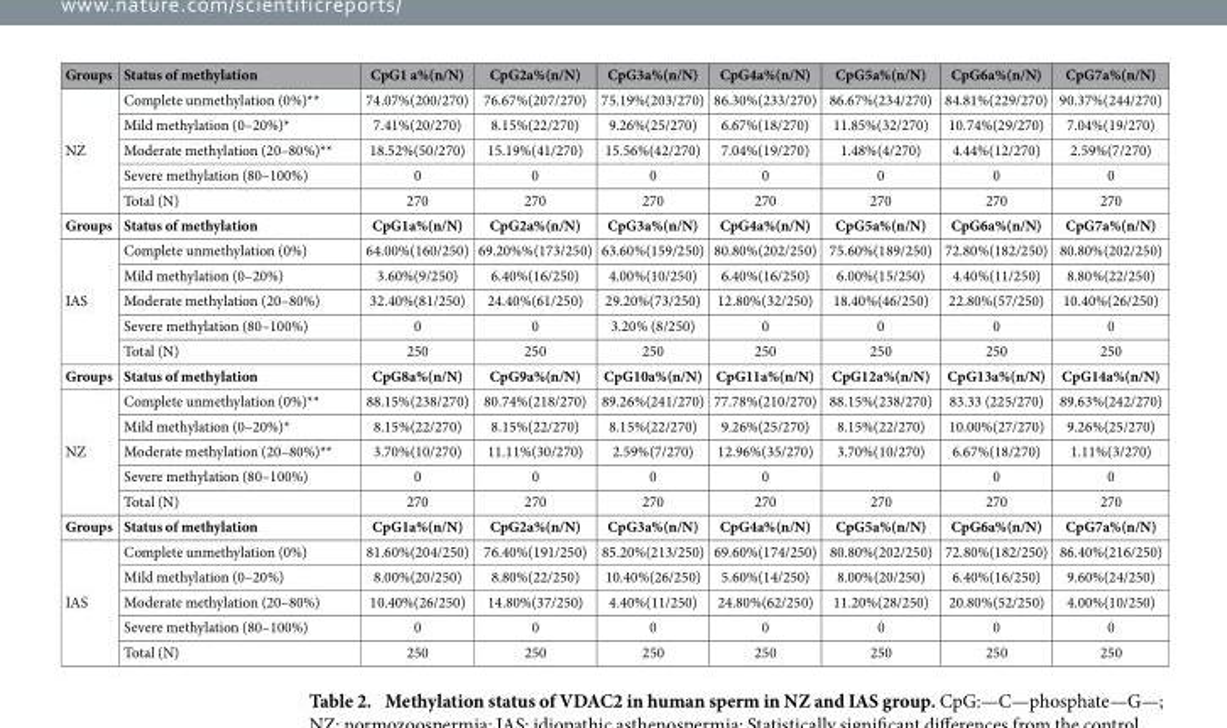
<table><thead><tr><td>Groups</td><td>Status of methylation</td><td>CpG1 a%(n/N)</td><td>CpG2a%(n/N)</td><td>CpG3a%(n/N)</td><td>CpG4a%(n/N)</td><td>CpG5a%(n/N)</td><td>CpG6a%(n/N)</td><td>CpG7a%(n/N)</td></tr></thead><tbody><tr><td rowspan="5">NZ</td><td>Complete unmethylation (0%)**</td><td>74.07%(200/270)</td><td>76.67%(207/270)</td><td>75.19%(203/270)</td><td>86.30%(233/270)</td><td>86.67%(234/270)</td><td>84.81%(229/270)</td><td>90.37%(244/270)</td></tr><tr><td>Mild methylation (0–20%)*</td><td>7.41%(20/270)</td><td>8.15%(22/270)</td><td>9.26%(25/270)</td><td>6.67%(18/270)</td><td>11.85%(32/270)</td><td>10.74%(29/270)</td><td>7.04%(19/270)</td></tr><tr><td>Moderate methylation (20–80%)**</td><td>18.52%(50/270)</td><td>15.19%(41/270)</td><td>15.56%(42/270)</td><td>7.04%(19/270)</td><td>1.48%(4/270)</td><td>4.44%(12/270)</td><td>2.59%(7/270)</td></tr><tr><td>Severe methylation (80–100%)</td><td>0</td><td>0</td><td>0</td><td>0</td><td>0</td><td>0</td><td>0</td></tr><tr><td>Total (N)</td><td>270</td><td>270</td><td>270</td><td>270</td><td>270</td><td>270</td><td>270</td></tr><tr><td>Groups</td><td>Status of methylation</td><td>CpG1a%(n/N)</td><td>CpG2a%(n/N)</td><td>CpG3a%(n/N)</td><td>CpG4a%(n/N)</td><td>CpG5a%(n/N)</td><td>CpG6a%(n/N)</td><td>CpG7a%(n/N)</td></tr><tr><td rowspan="5">IAS</td><td>Complete unmethylation (0%)</td><td>64.00%(160/250)</td><td>69.20%%(173/250)</td><td>63.60%(159/250)</td><td>80.80%(202/250)</td><td>75.60%(189/250)</td><td>72.80%(182/250)</td><td>80.80%(202/250)</td></tr><tr><td>Mild methylation (0–20%)</td><td>3.60%(9/250)</td><td>6.40%(16/250)</td><td>4.00%(10/250)</td><td>6.40%(16/250)</td><td>6.00%(15/250)</td><td>4.40%(11/250)</td><td>8.80%(22/250)</td></tr><tr><td>Moderate methylation (20–80%)</td><td>32.40%(81/250)</td><td>24.40%(61/250)</td><td>29.20%(73/250)</td><td>12.80%(32/250)</td><td>18.40%(46/250)</td><td>22.80%(57/250)</td><td>10.40%(26/250)</td></tr><tr><td>Severe methylation (80–100%)</td><td>0</td><td>0</td><td>3.20% (8/250)</td><td>0</td><td>0</td><td>0</td><td>0</td></tr><tr><td>Total (N)</td><td>250</td><td>250</td><td>250</td><td>250</td><td>250</td><td>250</td><td>250</td></tr><tr><td>Groups</td><td>Status of methylation</td><td>CpG8a%(n/N)</td><td>CpG9a%(n/N)</td><td>CpG10a%(n/N)</td><td>CpG11a%(n/N)</td><td>CpG12a%(n/N)</td><td>CpG13a%(n/N)</td><td>CpG14a%(n/N)</td></tr><tr><td rowspan="5">NZ</td><td>Complete unmethylation (0%)**</td><td>88.15%(238/270)</td><td>80.74%(218/270)</td><td>89.26%(241/270)</td><td>77.78%(210/270)</td><td>88.15%(238/270)</td><td>83.33 (225/270)</td><td>89.63%(242/270)</td></tr><tr><td>Mild methylation (0–20%)*</td><td>8.15%(22/270)</td><td>8.15%(22/270)</td><td>8.15%(22/270)</td><td>9.26%(25/270)</td><td>8.15%(22/270)</td><td>10.00%(27/270)</td><td>9.26%(25/270)</td></tr><tr><td>Moderate methylation (20–80%)**</td><td>3.70%(10/270)</td><td>11.11%(30/270)</td><td>2.59%(7/270)</td><td>12.96%(35/270)</td><td>3.70%(10/270)</td><td>6.67%(18/270)</td><td>1.11%(3/270)</td></tr><tr><td>Severe methylation (80–100%)</td><td>0</td><td>0</td><td>0</td><td>0</td><td></td><td>0</td><td>0</td></tr><tr><td>Total (N)</td><td>270</td><td>270</td><td>270</td><td>270</td><td>270</td><td>270</td><td>270</td></tr><tr><td>Groups</td><td>Status of methylation</td><td>CpG1a%(n/N)</td><td>CpG2a%(n/N)</td><td>CpG3a%(n/N)</td><td>CpG4a%(n/N)</td><td>CpG5a%(n/N)</td><td>CpG6a%(n/N)</td><td>CpG7a%(n/N)</td></tr><tr><td rowspan="5">IAS</td><td>Complete unmethylation (0%)</td><td>81.60%(204/250)</td><td>76.40%(191/250)</td><td>85.20%(213/250)</td><td>69.60%(174/250)</td><td>80.80%(202/250)</td><td>72.80%(182/250)</td><td>86.40%(216/250)</td></tr><tr><td>Mild methylation (0–20%)</td><td>8.00%(20/250)</td><td>8.80%(22/250)</td><td>10.40%(26/250)</td><td>5.60%(14/250)</td><td>8.00%(20/250)</td><td>6.40%(16/250)</td><td>9.60%(24/250)</td></tr><tr><td>Moderate methylation (20–80%)</td><td>10.40%(26/250)</td><td>14.80%(37/250)</td><td>4.40%(11/250)</td><td>24.80%(62/250)</td><td>11.20%(28/250)</td><td>20.80%(52/250)</td><td>4.00%(10/250)</td></tr><tr><td>Severe methylation (80–100%)</td><td>0</td><td>0</td><td>0</td><td>0</td><td>0</td><td>0</td><td>0</td></tr><tr><td>Total (N)</td><td>250</td><td>250</td><td>250</td><td>250</td><td>250</td><td>250</td><td>250</td></tr></tbody></table>